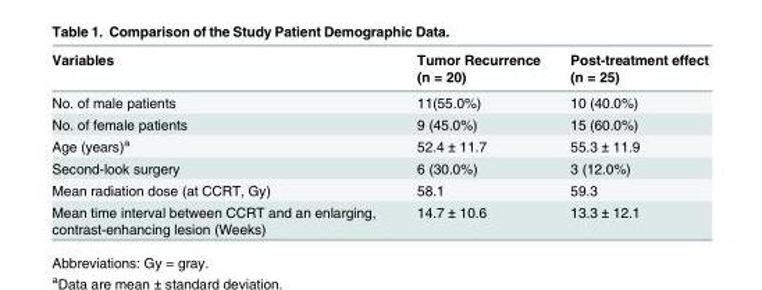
<table><thead><tr><td>Variables</td><td>Tumor Recurrence (n = 20)</td><td>Post-treatment effect (n = 25)</td></tr></thead><tbody><tr><td>No. of male patients</td><td>11(55.0%)</td><td>10 (40.0%)</td></tr><tr><td>No. of female patients</td><td>9 (45.0%)</td><td>15 (60.0%)</td></tr><tr><td>Age (years)<sup>a</sup></td><td>52.4 ± 11.7</td><td>55.3 ± 11.9</td></tr><tr><td>Second-look surgery</td><td>6 (30.0%)</td><td>3 (12.0%)</td></tr><tr><td>Mean radiation dose (at CCRT, Gy)</td><td>58.1</td><td>59.3</td></tr><tr><td>Mean time interval between CCRT and an enlarging, contrast-enhancing lesion (Weeks)</td><td>14.7 ± 10.6</td><td>13.3 ± 12.1</td></tr></tbody></table>